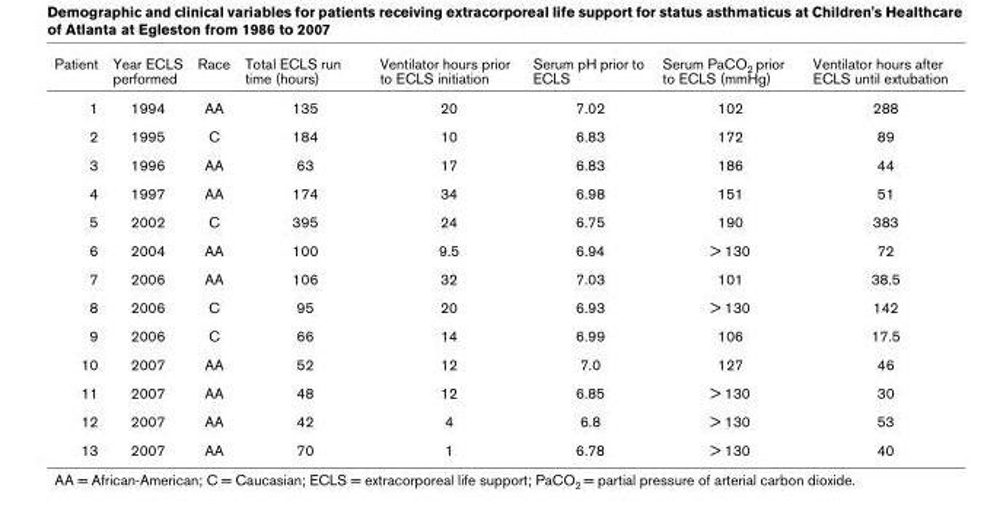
<table><thead><tr><td>Patient</td><td>Year ECLS performed</td><td>Race</td><td>Total ECLS run time (hours)</td><td>Ventilator hours prior to ECLS initiation</td><td>Serum pH prior to ECLS</td><td>Serum PaCO<sub>2</sub> prior to ECLS (mmHg)</td><td>Ventilator hours after ECLS until extubation</td></tr></thead><tbody><tr><td>1</td><td>1994</td><td>AA</td><td>135</td><td>20</td><td>7.02</td><td>102</td><td>288</td></tr><tr><td>2</td><td>1995</td><td>C</td><td>184</td><td>10</td><td>6.83</td><td>172</td><td>89</td></tr><tr><td>3</td><td>1996</td><td>AA</td><td>63</td><td>17</td><td>6.83</td><td>186</td><td>44</td></tr><tr><td>4</td><td>1997</td><td>AA</td><td>174</td><td>34</td><td>6.98</td><td>151</td><td>51</td></tr><tr><td>5</td><td>2002</td><td>C</td><td>395</td><td>24</td><td>6.75</td><td>190</td><td>383</td></tr><tr><td>6</td><td>2004</td><td>AA</td><td>100</td><td>9.5</td><td>6.94</td><td>&gt; 130</td><td>72</td></tr><tr><td>7</td><td>2006</td><td>AA</td><td>106</td><td>32</td><td>7.03</td><td>101</td><td>38.5</td></tr><tr><td>8</td><td>2006</td><td>C</td><td>95</td><td>20</td><td>6.93</td><td>&gt; 130</td><td>142</td></tr><tr><td>9</td><td>2006</td><td>C</td><td>66</td><td>14</td><td>6.99</td><td>106</td><td>17.5</td></tr><tr><td>10</td><td>2007</td><td>AA</td><td>52</td><td>12</td><td>7.0</td><td>127</td><td>46</td></tr><tr><td>11</td><td>2007</td><td>AA</td><td>48</td><td>12</td><td>6.85</td><td>&gt; 130</td><td>30</td></tr><tr><td>12</td><td>2007</td><td>AA</td><td>42</td><td>4</td><td>6.8</td><td>&gt; 130</td><td>53</td></tr><tr><td>13</td><td>2007</td><td>AA</td><td>70</td><td>1</td><td>6.78</td><td>&gt; 130</td><td>40</td></tr></tbody></table>